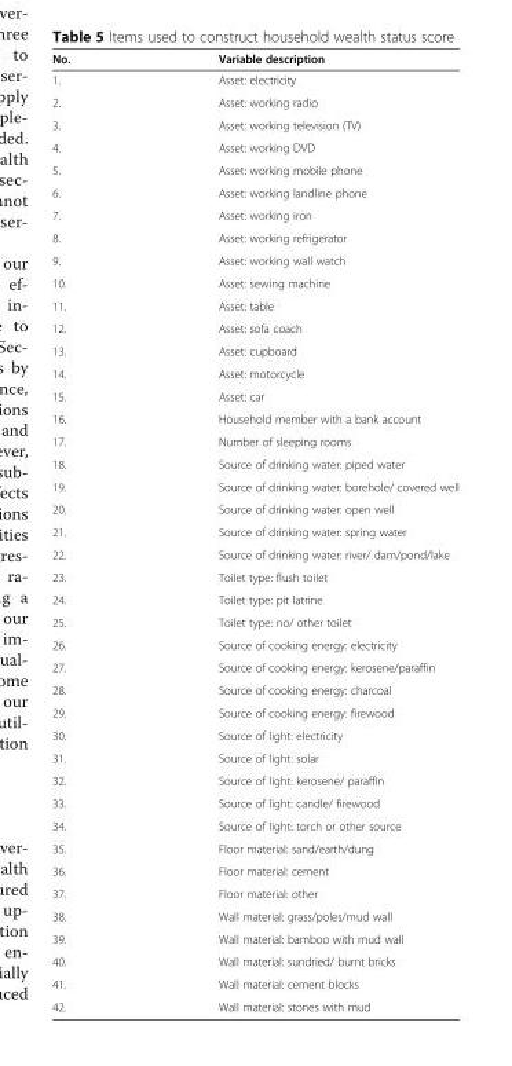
<table><thead><tr><td>No.</td><td>Variable description</td></tr></thead><tbody><tr><td>1.</td><td>Asset: electricity</td></tr><tr><td>2.</td><td>Asset: working radio</td></tr><tr><td>3.</td><td>Asset: working television (TV)</td></tr><tr><td>4.</td><td>Asset: working DVD</td></tr><tr><td>5.</td><td>Asset: working mobile phone</td></tr><tr><td>6.</td><td>Asset: working landline phone</td></tr><tr><td>7.</td><td>Asset: working iron</td></tr><tr><td>8.</td><td>Asset: working refrigerator</td></tr><tr><td>9.</td><td>Asset: working wall watch</td></tr><tr><td>10.</td><td>Asset: sewing machine</td></tr><tr><td>11.</td><td>Asset: table</td></tr><tr><td>12.</td><td>Asset: sofa coach</td></tr><tr><td>13.</td><td>Asset: cupboard</td></tr><tr><td>14.</td><td>Asset: motorcycle</td></tr><tr><td>15.</td><td>Asset: car</td></tr><tr><td>16.</td><td>Household member with a bank account</td></tr><tr><td>17.</td><td>Number of sleeping rooms</td></tr><tr><td>18.</td><td>Source of drinking water: piped water</td></tr><tr><td>19.</td><td>Source of drinking water: borehole/ covered well</td></tr><tr><td>20.</td><td>Source of drinking water: open well</td></tr><tr><td>21.</td><td>Source of drinking water: spring water</td></tr><tr><td>22.</td><td>Source of drinking water: river/ dam/pond/lake</td></tr><tr><td>23.</td><td>Toilet type: flush toilet</td></tr><tr><td>24.</td><td>Toilet type: pit latrine</td></tr><tr><td>25.</td><td>Toilet type: no/ other toilet</td></tr><tr><td>26.</td><td>Source of cooking energy: electricity</td></tr><tr><td>27.</td><td>Source of cooking energy: kerosene/paraffin</td></tr><tr><td>28.</td><td>Source of cooking energy: charcoal</td></tr><tr><td>29.</td><td>Source of cooking energy: firewood</td></tr><tr><td>30.</td><td>Source of light: electricity</td></tr><tr><td>31.</td><td>Source of light: solar</td></tr><tr><td>32.</td><td>Source of light: kerosene/ paraffin</td></tr><tr><td>33.</td><td>Source of light: candle/ firewood</td></tr><tr><td>34.</td><td>Source of light: torch or other source</td></tr><tr><td>35.</td><td>Floor material: sand/earth/dung</td></tr><tr><td>36.</td><td>Floor material: cement</td></tr><tr><td>37.</td><td>Floor material: other</td></tr><tr><td>38.</td><td>Wall material: grass/poles/mud wall</td></tr><tr><td>39.</td><td>Wall material: bamboo with mud wall</td></tr><tr><td>40.</td><td>Wall material: sundried/ burnt bricks</td></tr><tr><td>41.</td><td>Wall material: cement blocks</td></tr><tr><td>42.</td><td>Wall material: stones with mud</td></tr></tbody></table>